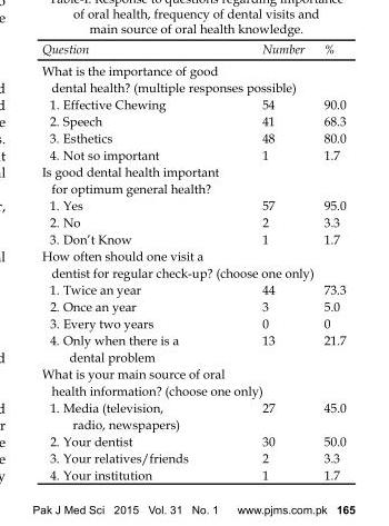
<table><thead><tr><td>Question</td><td>Number</td><td>%</td></tr></thead><tbody><tr><td colspan="3">What is the importance of good dental health? (multiple responses possible)</td></tr><tr><td>1. Effective Chewing</td><td>54</td><td>90.0</td></tr><tr><td>2. Speech</td><td>41</td><td>68.3</td></tr><tr><td>3. Esthetics</td><td>48</td><td>80.0</td></tr><tr><td>4. Not so important</td><td>1</td><td>1.7</td></tr><tr><td colspan="3">Is good dental health important for optimum general health?</td></tr><tr><td>1. Yes</td><td>57</td><td>95.0</td></tr><tr><td>2. No</td><td>2</td><td>3.3</td></tr><tr><td>3. Don’t Know</td><td>1</td><td>1.7</td></tr><tr><td colspan="3">How often should one visit a dentist for regular check-up? (choose one only)</td></tr><tr><td>1. Twice an year</td><td>44</td><td>73.3</td></tr><tr><td>2. Once an year</td><td>3</td><td>5.0</td></tr><tr><td>3. Every two years</td><td>0</td><td>0</td></tr><tr><td>4. Only when there is a dental problem</td><td>13</td><td>21.7</td></tr><tr><td colspan="3">What is your main source of oral health information? (choose one only)</td></tr><tr><td>1. Media (television, radio, newspapers)</td><td>27</td><td>45.0</td></tr><tr><td>2. Your dentist</td><td>30</td><td>50.0</td></tr><tr><td>3. Your relatives/friends</td><td>2</td><td>3.3</td></tr><tr><td>4. Your institution</td><td>1</td><td>1.7</td></tr></tbody></table>